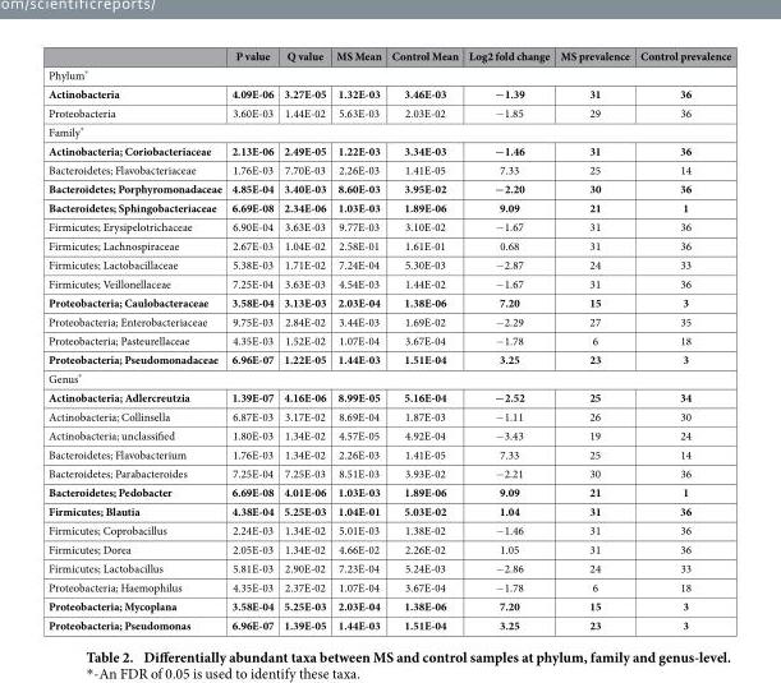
<table><thead><tr><td></td><td>P value</td><td>Q value</td><td>MS Mean</td><td>Control Mean</td><td>Log2 fold change</td><td>MS prevalence</td><td>Control prevalence</td></tr></thead><tbody><tr><td colspan="8">Phylum*</td></tr><tr><td>Actinobacteria</td><td>4.09E-06</td><td>3.27E-05</td><td>1.32E-03</td><td>3.46E-03</td><td>− 1.39</td><td>31</td><td>36</td></tr><tr><td>Proteobacteria</td><td>3.60E-03</td><td>1.44E-02</td><td>5.63E-03</td><td>2.03E-02</td><td>− 1.85</td><td>29</td><td>36</td></tr><tr><td colspan="8">Family*</td></tr><tr><td>Actinobacteria; Coriobacteriaceae</td><td>2.13E-06</td><td>2.49E-05</td><td>1.22E-03</td><td>3.34E-03</td><td>− 1.46</td><td>31</td><td>36</td></tr><tr><td>Bacteroidetes; Flavobacteriaceae</td><td>1.76E-03</td><td>7.70E-03</td><td>2.26E-03</td><td>1.41E-05</td><td>7.33</td><td>25</td><td>14</td></tr><tr><td>Bacteroidetes; Porphyromonadaceae</td><td>4.85E-04</td><td>3.40E-03</td><td>8.60E-03</td><td>3.95E-02</td><td>− 2.20</td><td>30</td><td>36</td></tr><tr><td>Bacteroidetes; Sphingobacteriaceae</td><td>6.69E-08</td><td>2.34E-06</td><td>1.03E-03</td><td>1.89E-06</td><td>9.09</td><td>21</td><td>1</td></tr><tr><td>Firmicutes; Erysipelotrichaceae</td><td>6.90E-04</td><td>3.63E-03</td><td>9.77E-03</td><td>3.10E-02</td><td>− 1.67</td><td>31</td><td>36</td></tr><tr><td>Firmicutes; Lachnospiraceae</td><td>2.67E-03</td><td>1.04E-02</td><td>2.58E-01</td><td>1.61E-01</td><td>0.68</td><td>31</td><td>36</td></tr><tr><td>Firmicutes; Lactobacillaceae</td><td>5.38E-03</td><td>1.71E-02</td><td>7.24E-04</td><td>5.30E-03</td><td>− 2.87</td><td>24</td><td>33</td></tr><tr><td>Firmicutes; Veillonellaceae</td><td>7.25E-04</td><td>3.63E-03</td><td>4.54E-03</td><td>1.44E-02</td><td>− 1.67</td><td>31</td><td>36</td></tr><tr><td>Proteobacteria; Caulobacteraceae</td><td>3.58E-04</td><td>3.13E-03</td><td>2.03E-04</td><td>1.38E-06</td><td>7.20</td><td>15</td><td>3</td></tr><tr><td>Proteobacteria; Enterobacteriaceae</td><td>9.75E-03</td><td>2.84E-02</td><td>3.44E-03</td><td>1.69E-02</td><td>− 2.29</td><td>27</td><td>35</td></tr><tr><td>Proteobacteria; Pasteurellaceae</td><td>4.35E-03</td><td>1.52E-02</td><td>1.07E-04</td><td>3.67E-04</td><td>− 1.78</td><td>6</td><td>18</td></tr><tr><td>Proteobacteria; Pseudomonadaceae</td><td>6.96E-07</td><td>1.22E-05</td><td>1.44E-03</td><td>1.51E-04</td><td>3.25</td><td>23</td><td>3</td></tr><tr><td colspan="8">Genus*</td></tr><tr><td>Actinobacteria; Adlercreutzia</td><td>1.39E-07</td><td>4.16E-06</td><td>8.99E-05</td><td>5.16E-04</td><td>− 2.52</td><td>25</td><td>34</td></tr><tr><td>Actinobacteria; Collinsella</td><td>6.87E-03</td><td>3.17E-02</td><td>8.69E-04</td><td>1.87E-03</td><td>− 1.11</td><td>26</td><td>30</td></tr><tr><td>Actinobacteria; unclassified</td><td>1.80E-03</td><td>1.34E-02</td><td>4.57E-05</td><td>4.92E-04</td><td>− 3.43</td><td>19</td><td>24</td></tr><tr><td>Bacteroidetes; Flavobacterium</td><td>1.76E-03</td><td>1.34E-02</td><td>2.26E-03</td><td>1.41E-05</td><td>7.33</td><td>25</td><td>14</td></tr><tr><td>Bacteroidetes; Parabacteroides</td><td>7.25E-04</td><td>7.25E-03</td><td>8.51E-03</td><td>3.93E-02</td><td>− 2.21</td><td>30</td><td>36</td></tr><tr><td>Bacteroidetes; Pedobacter</td><td>6.69E-08</td><td>4.01E-06</td><td>1.03E-03</td><td>1.89E-06</td><td>9.09</td><td>21</td><td>1</td></tr><tr><td>Firmicutes; Blautia</td><td>4.38E-04</td><td>5.25E-03</td><td>1.04E-01</td><td>5.03E-02</td><td>1.04</td><td>31</td><td>36</td></tr><tr><td>Firmicutes; Coprobacillus</td><td>2.24E-03</td><td>1.34E-02</td><td>5.01E-03</td><td>1.38E-02</td><td>− 1.46</td><td>31</td><td>36</td></tr><tr><td>Firmicutes; Dorea</td><td>2.05E-03</td><td>1.34E-02</td><td>4.66E-02</td><td>2.26E-02</td><td>1.05</td><td>31</td><td>36</td></tr><tr><td>Firmicutes; Lactobacillus</td><td>5.81E-03</td><td>2.90E-02</td><td>7.23E-04</td><td>5.24E-03</td><td>− 2.86</td><td>24</td><td>33</td></tr><tr><td>Proteobacteria; Haemophilus</td><td>4.35E-03</td><td>2.37E-02</td><td>1.07E-04</td><td>3.67E-04</td><td>− 1.78</td><td>6</td><td>18</td></tr><tr><td>Proteobacteria; Mycoplana</td><td>3.58E-04</td><td>5.25E-03</td><td>2.03E-04</td><td>1.38E-06</td><td>7.20</td><td>15</td><td>3</td></tr><tr><td>Proteobacteria; Pseudomonas</td><td>6.96E-07</td><td>1.39E-05</td><td>1.44E-03</td><td>1.51E-04</td><td>3.25</td><td>23</td><td>3</td></tr></tbody></table>